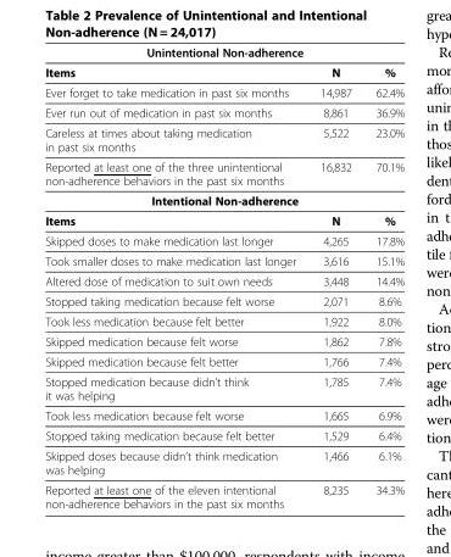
<table><thead><tr><td colspan="3">Unintentional Non-adherence</td></tr><tr><td>Items</td><td>N</td><td>%</td></tr></thead><tbody><tr><td>Ever forget to take medication in past six months</td><td>14,987</td><td>62.4%</td></tr><tr><td>Ever run out of medication in past six months</td><td>8,861</td><td>36.9%</td></tr><tr><td>Careless at times about taking medication in past six months</td><td>5,522</td><td>23.0%</td></tr><tr><td>Reported at least one of the three unintentional non-adherence behaviors in the past six months</td><td>16,832</td><td>70.1%</td></tr><tr><td colspan="3">Intentional Non-adherence</td></tr><tr><td>Items</td><td>N</td><td>%</td></tr><tr><td>Skipped doses to make medication last longer</td><td>4,265</td><td>17.8%</td></tr><tr><td>Took smaller doses to make medication last longer</td><td>3,616</td><td>15.1%</td></tr><tr><td>Altered dose of medication to suit own needs</td><td>3,448</td><td>14.4%</td></tr><tr><td>Stopped taking medication because felt worse</td><td>2,071</td><td>8.6%</td></tr><tr><td>Took less medication because felt better</td><td>1,922</td><td>8.0%</td></tr><tr><td>Skipped medication because felt worse</td><td>1,862</td><td>7.8%</td></tr><tr><td>Skipped medication because felt better</td><td>1,766</td><td>7.4%</td></tr><tr><td>Stopped medication because didn’t think it was helping</td><td>1,785</td><td>7.4%</td></tr><tr><td>Took less medication because felt worse</td><td>1,665</td><td>6.9%</td></tr><tr><td>Stopped taking medication because felt better</td><td>1,529</td><td>6.4%</td></tr><tr><td>Skipped doses because didn’t think medication was helping</td><td>1,466</td><td>6.1%</td></tr><tr><td>Reported at least one of the eleven intentional non-adherence behaviors in the past six months</td><td>8,235</td><td>34.3%</td></tr></tbody></table>